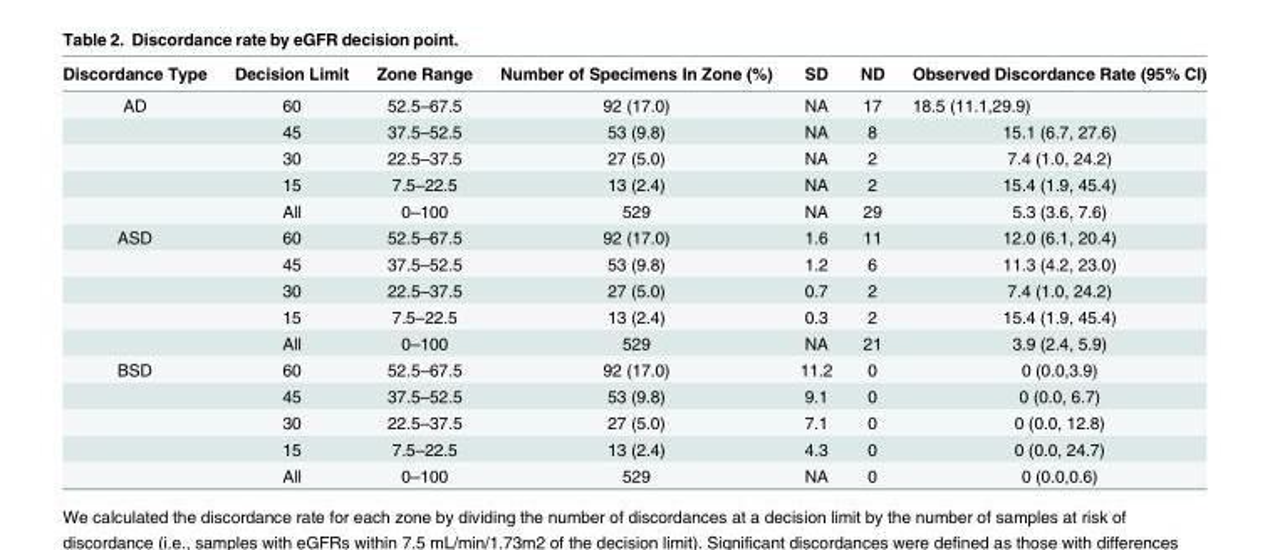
<table><thead><tr><td>Discordance Type</td><td>Decision Limit</td><td>Zone Range</td><td>Number of Specimens In Zone (%)</td><td>SD</td><td>ND</td><td>Observed Discordance Rate (95% CI)</td></tr></thead><tbody><tr><td rowspan="5">AD</td><td>60</td><td>52.5–67.5</td><td>92 (17.0)</td><td>NA</td><td>17</td><td>18.5 (11.1,29.9)</td></tr><tr><td>45</td><td>37.5–52.5</td><td>53 (9.8)</td><td>NA</td><td>8</td><td>15.1 (6.7, 27.6)</td></tr><tr><td>30</td><td>22.5–37.5</td><td>27 (5.0)</td><td>NA</td><td>2</td><td>7.4 (1.0, 24.2)</td></tr><tr><td>15</td><td>7.5–22.5</td><td>13 (2.4)</td><td>NA</td><td>2</td><td>15.4 (1.9, 45.4)</td></tr><tr><td>All</td><td>0–100</td><td>529</td><td>NA</td><td>29</td><td>5.3 (3.6, 7.6)</td></tr><tr><td rowspan="5">ASD</td><td>60</td><td>52.5–67.5</td><td>92 (17.0)</td><td>1.6</td><td>11</td><td>12.0 (6.1, 20.4)</td></tr><tr><td>45</td><td>37.5–52.5</td><td>53 (9.8)</td><td>1.2</td><td>6</td><td>11.3 (4.2, 23.0)</td></tr><tr><td>30</td><td>22.5–37.5</td><td>27 (5.0)</td><td>0.7</td><td>2</td><td>7.4 (1.0, 24.2)</td></tr><tr><td>15</td><td>7.5–22.5</td><td>13 (2.4)</td><td>0.3</td><td>2</td><td>15.4 (1.9, 45.4)</td></tr><tr><td>All</td><td>0–100</td><td>529</td><td>NA</td><td>21</td><td>3.9 (2.4, 5.9)</td></tr><tr><td rowspan="5">BSD</td><td>60</td><td>52.5–67.5</td><td>92 (17.0)</td><td>11.2</td><td>0</td><td>0 (0.0,3.9)</td></tr><tr><td>45</td><td>37.5–52.5</td><td>53 (9.8)</td><td>9.1</td><td>0</td><td>0 (0.0, 6.7)</td></tr><tr><td>30</td><td>22.5–37.5</td><td>27 (5.0)</td><td>7.1</td><td>0</td><td>0 (0.0, 12.8)</td></tr><tr><td>15</td><td>7.5–22.5</td><td>13 (2.4)</td><td>4.3</td><td>0</td><td>0 (0.0, 24.7)</td></tr><tr><td>All</td><td>0–100</td><td>529</td><td>NA</td><td>0</td><td>0 (0.0,0.6)</td></tr></tbody></table>